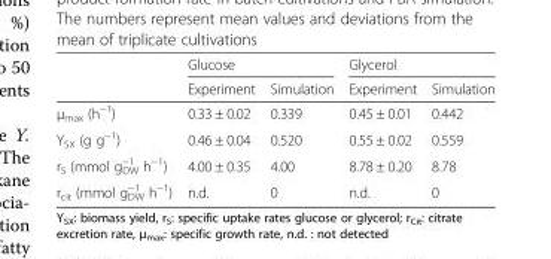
<table><thead><tr><td rowspan="2"></td><td colspan="2">Glucose</td><td colspan="2">Glycerol</td></tr><tr><td>Experiment</td><td>Simulation</td><td>Experiment</td><td>Simulation</td></tr></thead><tbody><tr><td>μ<sub>max</sub> (h<sup>−1</sup>)</td><td>0.33 ± 0.02</td><td>0.339</td><td>0.45 ± 0.01</td><td>0.442</td></tr><tr><td>Y<sub>SX</sub> (g g<sup>−1</sup>)</td><td>0.46 ± 0.04</td><td>0.520</td><td>0.55 ± 0.02</td><td>0.559</td></tr><tr><td>r<sub>S</sub> (mmol g<sub>DW</sub> <sup>−1</sup> h<sup>−1</sup>)</td><td>4.00 ± 0.35</td><td>4.00</td><td>8.78 ± 0.20</td><td>8.78</td></tr><tr><td>r<sub>cit</sub> (mmol g<sub>DW</sub> <sup>−1</sup> h<sup>−1</sup>)</td><td>n.d.</td><td>0</td><td>n.d.</td><td>0</td></tr></tbody></table>